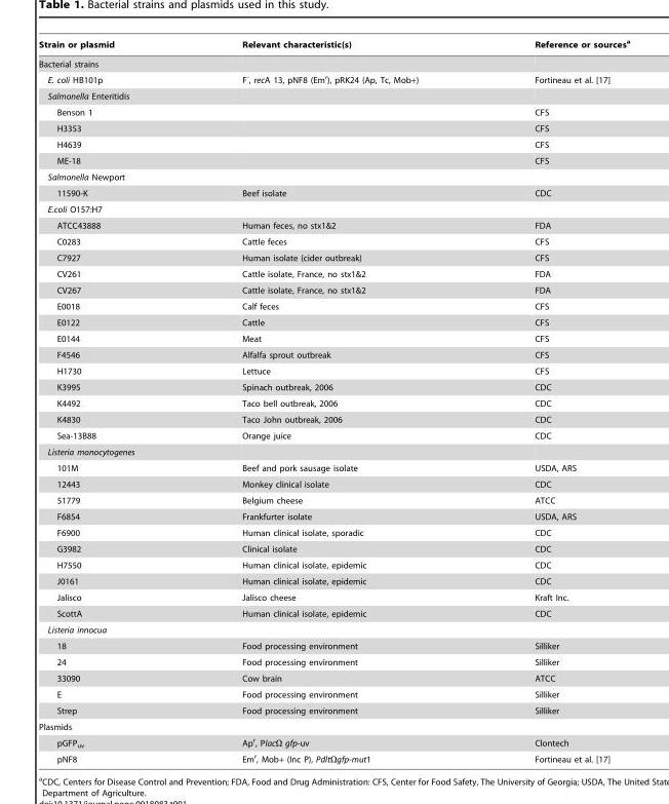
<table><thead><tr><td>Strain or plasmid</td><td>Relevant characteristic(s)</td><td>Reference or sources<sup>a</sup></td></tr></thead><tbody><tr><td colspan="3">Bacterial strains</td></tr><tr><td>E. coli HB101p</td><td>F<sup>-</sup>, recA 13, pNF8 (Em<sup>r</sup>), pRK24 (Ap, Tc, Mob+)</td><td>Fortineau et al. [17]</td></tr><tr><td colspan="3">Salmonella Enteritidis</td></tr><tr><td>Benson 1</td><td></td><td>CFS</td></tr><tr><td>H3353</td><td></td><td>CFS</td></tr><tr><td>H4639</td><td></td><td>CFS</td></tr><tr><td>ME-18</td><td></td><td>CFS</td></tr><tr><td colspan="3">Salmonella Newport</td></tr><tr><td>11590-K</td><td>Beef isolate</td><td>CDC</td></tr><tr><td colspan="3">E.coli O157:H7</td></tr><tr><td>ATCC43888</td><td>Human feces, no stx1&amp;2</td><td>FDA</td></tr><tr><td>C0283</td><td>Cattle feces</td><td>CFS</td></tr><tr><td>C7927</td><td>Human isolate (cider outbreak)</td><td>CFS</td></tr><tr><td>CV261</td><td>Cattle isolate, France, no stx1&amp;2</td><td>FDA</td></tr><tr><td>CV267</td><td>Cattle isolate, France, no stx1&amp;2</td><td>FDA</td></tr><tr><td>E0018</td><td>Calf feces</td><td>CFS</td></tr><tr><td>E0122</td><td>Cattle</td><td>CFS</td></tr><tr><td>E0144</td><td>Meat</td><td>CFS</td></tr><tr><td>F4546</td><td>Alfalfa sprout outbreak</td><td>CFS</td></tr><tr><td>H1730</td><td>Lettuce</td><td>CFS</td></tr><tr><td>K3995</td><td>Spinach outbreak, 2006</td><td>CDC</td></tr><tr><td>K4492</td><td>Taco bell outbreak, 2006</td><td>CDC</td></tr><tr><td>K4830</td><td>Taco John outbreak, 2006</td><td>CDC</td></tr><tr><td>Sea-13B88</td><td>Orange juice</td><td>CDC</td></tr><tr><td colspan="3">Listeria monocytogenes</td></tr><tr><td>101M</td><td>Beef and pork sausage isolate</td><td>USDA, ARS</td></tr><tr><td>12443</td><td>Monkey clinical isolate</td><td>CDC</td></tr><tr><td>51779</td><td>Belgium cheese</td><td>ATCC</td></tr><tr><td>F6854</td><td>Frankfurter isolate</td><td>USDA, ARS</td></tr><tr><td>F6900</td><td>Human clinical isolate, sporadic</td><td>CDC</td></tr><tr><td>G3982</td><td>Clinical isolate</td><td>CDC</td></tr><tr><td>H7550</td><td>Human clinical isolate, epidemic</td><td>CDC</td></tr><tr><td>J0161</td><td>Human clinical isolate, epidemic</td><td>CDC</td></tr><tr><td>Jalisco</td><td>Jalisco cheese</td><td>Kraft Inc.</td></tr><tr><td>ScottA</td><td>Human clinical isolate, epidemic</td><td>CDC</td></tr><tr><td colspan="3">Listeria innocua</td></tr><tr><td>18</td><td>Food processing environment</td><td>Silliker</td></tr><tr><td>24</td><td>Food processing environment</td><td>Silliker</td></tr><tr><td>33090</td><td>Cow brain</td><td>ATCC</td></tr><tr><td>E</td><td>Food processing environment</td><td>Silliker</td></tr><tr><td>Strep</td><td>Food processing environment</td><td>Silliker</td></tr><tr><td colspan="3">Plasmids</td></tr><tr><td>pGFP<sub>uv</sub></td><td>Ap<sup>r</sup>, PlacΩ gfp-uv</td><td>Clontech</td></tr><tr><td>pNF8</td><td>Em<sup>r</sup>, Mob+ (Inc P), PdltΩgfp-mut1</td><td>Fortineau et al. [17]</td></tr></tbody></table>